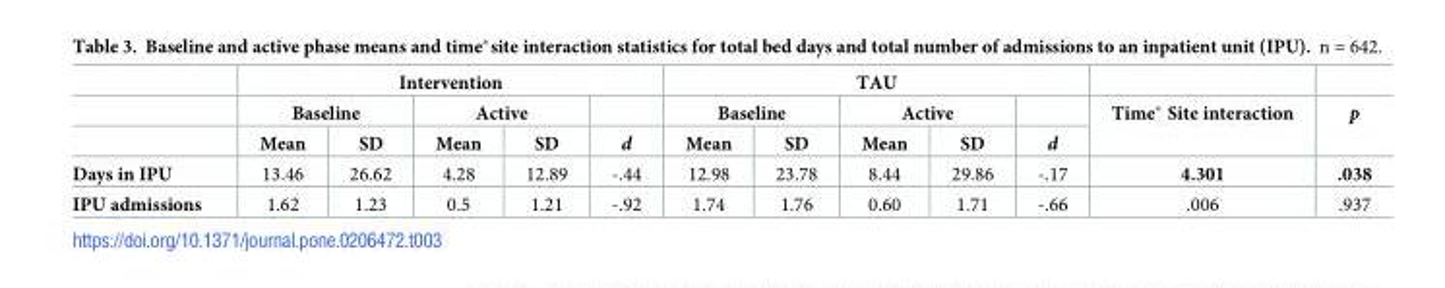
<table><thead><tr><td rowspan="3"></td><td colspan="5">Intervention</td><td colspan="5">TAU</td><td rowspan="3">Time* Site interaction</td><td rowspan="3">p</td></tr><tr><td colspan="2">Baseline</td><td colspan="2">Active</td><td rowspan="2">d</td><td colspan="2">Baseline</td><td colspan="2">Active</td><td rowspan="2">d</td></tr><tr><td>Mean</td><td>SD</td><td>Mean</td><td>SD</td><td>Mean</td><td>SD</td><td>Mean</td><td>SD</td></tr></thead><tbody><tr><td>Days in IPU</td><td>13.46</td><td>26.62</td><td>4.28</td><td>12.89</td><td>-.44</td><td>12.98</td><td>23.78</td><td>8.44</td><td>29.86</td><td>-.17</td><td>4.301</td><td>.038</td></tr><tr><td>IPU admissions</td><td>1.62</td><td>1.23</td><td>0.5</td><td>1.21</td><td>-.92</td><td>1.74</td><td>1.76</td><td>0.60</td><td>1.71</td><td>-.66</td><td>.006</td><td>.937</td></tr></tbody></table>